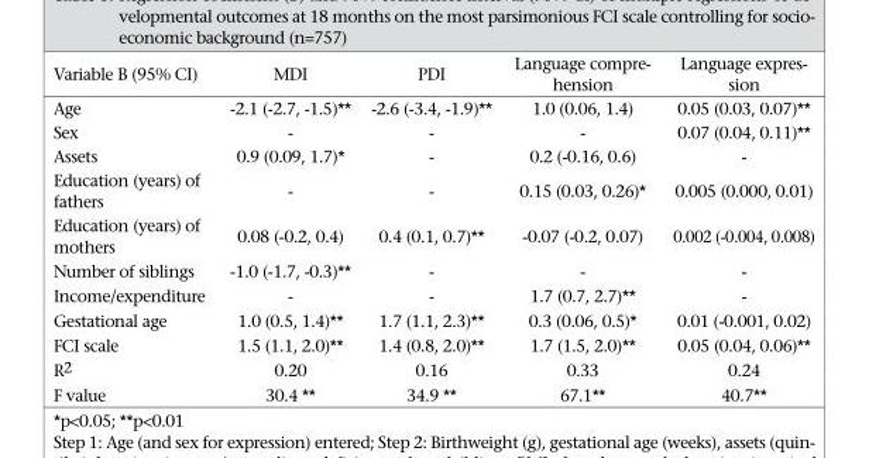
<table><thead><tr><td>Variable B (95% CI)</td><td>MDI</td><td>PDI</td><td>Language compre- hension</td><td>Language expres- sion</td></tr></thead><tbody><tr><td>Age</td><td>-2.1 (-2.7, -1.5)**</td><td>-2.6 (-3.4, -1.9)**</td><td>1.0 (0.06, 1.4)</td><td>0.05 (0.03, 0.07)**</td></tr><tr><td>Sex</td><td>-</td><td>-</td><td>-</td><td>0.07 (0.04, 0.11)**</td></tr><tr><td>Assets</td><td>0.9 (0.09, 1.7)*</td><td>-</td><td>0.2 (-0.16, 0.6)</td><td>-</td></tr><tr><td>Education (years) of fathers</td><td>-</td><td>-</td><td>0.15 (0.03, 0.26)*</td><td>0.005 (0.000, 0.01)</td></tr><tr><td>Education (years) of mothers</td><td>0.08 (-0.2, 0.4)</td><td>0.4 (0.1, 0.7)**</td><td>-0.07 (-0.2, 0.07)</td><td>0.002 (-0.004, 0.008)</td></tr><tr><td>Number of siblings</td><td>-1.0 (-1.7, -0.3)**</td><td>-</td><td>-</td><td>-</td></tr><tr><td>Income/expenditure</td><td>-</td><td>-</td><td>1.7 (0.7, 2.7)**</td><td>-</td></tr><tr><td>Gestational age</td><td>1.0 (0.5, 1.4)**</td><td>1.7 (1.1, 2.3)**</td><td>0.3 (0.06, 0.5)*</td><td>0.01 (-0.001, 0.02)</td></tr><tr><td>FCI scale</td><td>1.5 (1.1, 2.0)**</td><td>1.4 (0.8, 2.0)**</td><td>1.7 (1.5, 2.0)**</td><td>0.05 (0.04, 0.06)**</td></tr><tr><td>R2</td><td>0.20</td><td>0.16</td><td>0.33</td><td>0.24</td></tr><tr><td>F value</td><td>30.4 **</td><td>34.9 **</td><td>67.1**</td><td>40.7**</td></tr></tbody></table>